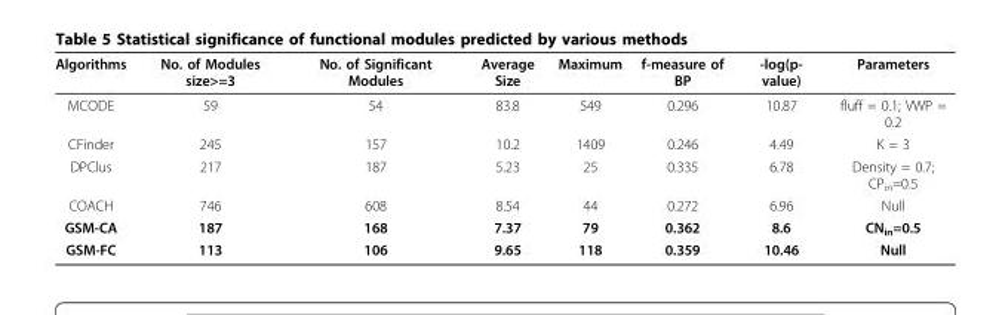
<table><thead><tr><td>Algorithms</td><td>No. of Modules size&gt;=3</td><td>No. of Significant Modules</td><td>Average Size</td><td>Maximum</td><td>f-measure of BP</td><td>-log(p- value)</td><td>Parameters</td></tr></thead><tbody><tr><td>MCODE</td><td>59</td><td>54</td><td>83.8</td><td>549</td><td>0.296</td><td>10.87</td><td>fluff = 0.1; VWP = 0.2</td></tr><tr><td>CFinder</td><td>245</td><td>157</td><td>10.2</td><td>1409</td><td>0.246</td><td>4.49</td><td>K = 3</td></tr><tr><td>DPClus</td><td>217</td><td>187</td><td>5.23</td><td>25</td><td>0.335</td><td>6.78</td><td>Density = 0.7; CP<sub>in</sub>=0.5</td></tr><tr><td>COACH</td><td>746</td><td>608</td><td>8.54</td><td>44</td><td>0.272</td><td>6.96</td><td>Null</td></tr><tr><td>GSM-CA</td><td>187</td><td>168</td><td>7.37</td><td>79</td><td>0.362</td><td>8.6</td><td>CN<sub>in</sub>=0.5</td></tr><tr><td>GSM-FC</td><td>113</td><td>106</td><td>9.65</td><td>118</td><td>0.359</td><td>10.46</td><td>Null</td></tr></tbody></table>